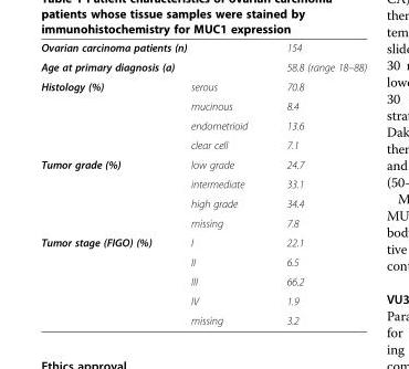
<table><tbody><tr><td colspan="2">Ovarian carcinoma patients (n)</td><td>154</td></tr><tr><td colspan="2">Age at primary diagnosis (a)</td><td>58.8 (range 18–88)</td></tr><tr><td rowspan="4">Histology (%)</td><td>serous</td><td>70.8</td></tr><tr><td>mucinous</td><td>8.4</td></tr><tr><td>endometrioid</td><td>13.6</td></tr><tr><td>clear cell</td><td>7.1</td></tr><tr><td rowspan="4">Tumor grade (%)</td><td>low grade</td><td>24.7</td></tr><tr><td>intermediate</td><td>33.1</td></tr><tr><td>high grade</td><td>34.4</td></tr><tr><td>missing</td><td>7.8</td></tr><tr><td rowspan="5">Tumor stage (FIGO) (%)</td><td>I</td><td>22.1</td></tr><tr><td>II</td><td>6.5</td></tr><tr><td>III</td><td>66.2</td></tr><tr><td>IV</td><td>1.9</td></tr><tr><td>missing</td><td>3.2</td></tr></tbody></table>